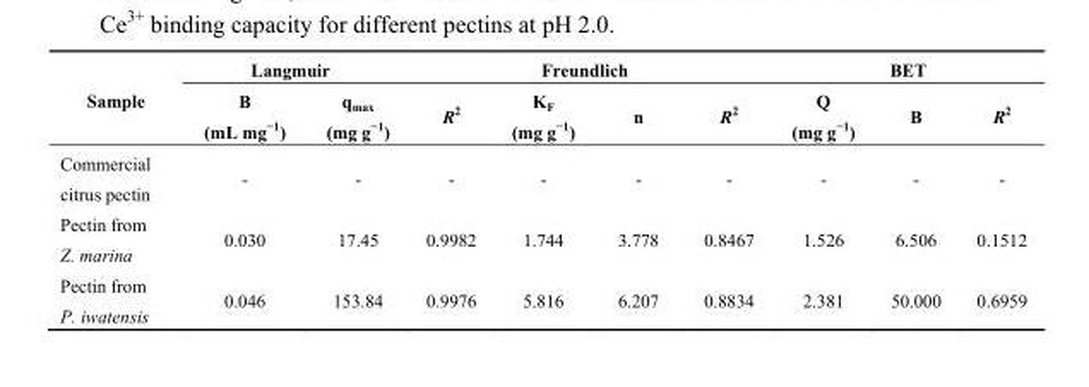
<table><thead><tr><td rowspan="2">Sample</td><td colspan="2">Langmuir</td><td colspan="4">Freundlich</td><td colspan="3">BET</td></tr><tr><td>B (mL mg<sup>−1</sup>)</td><td>q<sub>max</sub> (mg g<sup>−1</sup>)</td><td>R<sup>2</sup></td><td>K<sub>F</sub> (mg g<sup>−1</sup>)</td><td>n</td><td>R<sup>2</sup></td><td>Q (mg g<sup>−1</sup>)</td><td>B</td><td>R<sup>2</sup></td></tr></thead><tbody><tr><td>Commercial citrus pectin</td><td>-</td><td>-</td><td>-</td><td>-</td><td>-</td><td>-</td><td>-</td><td>-</td><td>-</td></tr><tr><td>Pectin from Z. marina</td><td>0.030</td><td>17.45</td><td>0.9982</td><td>1.744</td><td>3.778</td><td>0.8467</td><td>1.526</td><td>6.506</td><td>0.1512</td></tr><tr><td>Pectin from P. iwatensis</td><td>0.046</td><td>153.84</td><td>0.9976</td><td>5.816</td><td>6.207</td><td>0.8834</td><td>2.381</td><td>50.000</td><td>0.6959</td></tr></tbody></table>